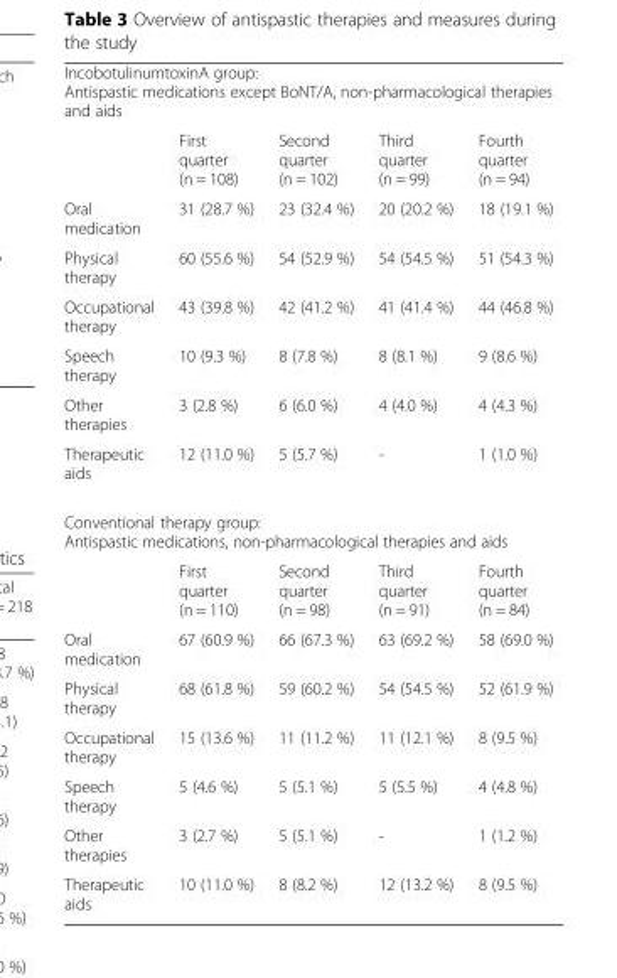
<table><tbody><tr><td colspan="5">IncobotulinumtoxinA group: Antispastic medications except BoNT/A, non-pharmacological therapies and aids</td></tr><tr><td></td><td>First quarter (n = 108)</td><td>Second quarter (n = 102)</td><td>Third quarter (n = 99)</td><td>Fourth quarter (n = 94)</td></tr><tr><td>Oral medication</td><td>31 (28.7 %)</td><td>23 (32.4 %)</td><td>20 (20.2 %)</td><td>18 (19.1 %)</td></tr><tr><td>Physical therapy</td><td>60 (55.6 %)</td><td>54 (52.9 %)</td><td>54 (54.5 %)</td><td>51 (54.3 %)</td></tr><tr><td>Occupational therapy</td><td>43 (39.8 %)</td><td>42 (41.2 %)</td><td>41 (41.4 %)</td><td>44 (46.8 %)</td></tr><tr><td>Speech therapy</td><td>10 (9.3 %)</td><td>8 (7.8 %)</td><td>8 (8.1 %)</td><td>9 (8.6 %)</td></tr><tr><td>Other therapies</td><td>3 (2.8 %)</td><td>6 (6.0 %)</td><td>4 (4.0 %)</td><td>4 (4.3 %)</td></tr><tr><td>Therapeutic aids</td><td>12 (11.0 %)</td><td>5 (5.7 %)</td><td>-</td><td>1 (1.0 %)</td></tr><tr><td colspan="5">Conventional therapy group: Antispastic medications, non-pharmacological therapies and aids</td></tr><tr><td></td><td>First quarter (n = 110)</td><td>Second quarter (n = 98)</td><td>Third quarter (n = 91)</td><td>Fourth quarter (n = 84)</td></tr><tr><td>Oral medication</td><td>67 (60.9 %)</td><td>66 (67.3 %)</td><td>63 (69.2 %)</td><td>58 (69.0 %)</td></tr><tr><td>Physical therapy</td><td>68 (61.8 %)</td><td>59 (60.2 %)</td><td>54 (54.5 %)</td><td>52 (61.9 %)</td></tr><tr><td>Occupational therapy</td><td>15 (13.6 %)</td><td>11 (11.2 %)</td><td>11 (12.1 %)</td><td>8 (9.5 %)</td></tr><tr><td>Speech therapy</td><td>5 (4.6 %)</td><td>5 (5.1 %)</td><td>5 (5.5 %)</td><td>4 (4.8 %)</td></tr><tr><td>Other therapies</td><td>3 (2.7 %)</td><td>5 (5.1 %)</td><td>-</td><td>1 (1.2 %)</td></tr><tr><td>Therapeutic aids</td><td>10 (11.0 %)</td><td>8 (8.2 %)</td><td>12 (13.2 %)</td><td>8 (9.5 %)</td></tr></tbody></table>